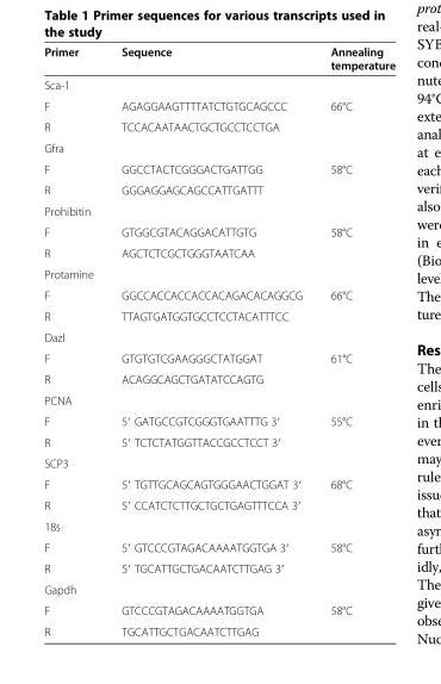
<table><thead><tr><td>Primer</td><td>Sequence</td><td>Annealing temperature</td></tr></thead><tbody><tr><td colspan="3">Sca-1</td></tr><tr><td>F</td><td>AGAGGAAGTTTTATCTGTGCAGCCC</td><td>66°C</td></tr><tr><td>R</td><td>TCCACAATAACTGCTGCCTCCTGA</td><td></td></tr><tr><td colspan="3">Gfra</td></tr><tr><td>F</td><td>GGCCTACTCGGGACTGATTGG</td><td>58°C</td></tr><tr><td>R</td><td>GGGAGGAGCAGCCATTGATTT</td><td></td></tr><tr><td colspan="3">Prohibitin</td></tr><tr><td>F</td><td>GTGGCGTACAGGACATTGTG</td><td>58°C</td></tr><tr><td>R</td><td>AGCTCTCGCTGGGTAATCAA</td><td></td></tr><tr><td colspan="3">Protamine</td></tr><tr><td>F</td><td>GGCCACCACCACCACAGACACAGGCG</td><td>66°C</td></tr><tr><td>R</td><td>TTAGTGATGGTGCCTCCTACATTTCC</td><td></td></tr><tr><td colspan="3">Dazl</td></tr><tr><td>F</td><td>GTGTGTCGAAGGGCTATGGAT</td><td>61°C</td></tr><tr><td>R</td><td>ACAGGCAGCTGATATCCAGTG</td><td></td></tr><tr><td colspan="3">PCNA</td></tr><tr><td>F</td><td>5′ GATGCCGTCGGGTGAATTTG 3′</td><td>55°C</td></tr><tr><td>R</td><td>5′ TCTCTATGGTTACCGCCTCCT 3′</td><td></td></tr><tr><td colspan="3">SCP3</td></tr><tr><td>F</td><td>5′ TGTTGCAGCAGTGGGAACTGGAT 3′</td><td>68°C</td></tr><tr><td>R</td><td>5′ CCATCTCTTGCTGCTGAGTTTCCA 3′</td><td></td></tr><tr><td colspan="3">18s</td></tr><tr><td>F</td><td>5′ GTCCCGTAGACAAAATGGTGA 3′</td><td>58°C</td></tr><tr><td>R</td><td>5′ TGCATTGCTGACAATCTTGAG 3′</td><td></td></tr><tr><td colspan="3">Gapdh</td></tr><tr><td>F</td><td>GTCCCGTAGACAAAATGGTGA</td><td>58°C</td></tr><tr><td>R</td><td>TGCATTGCTGACAATCTTGAG</td><td></td></tr></tbody></table>